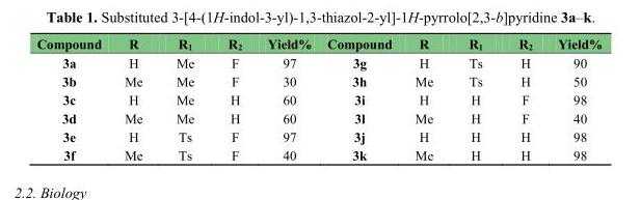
<table><thead><tr><td>Compound</td><td>R</td><td>R<sub>1</sub></td><td>R<sub>2</sub></td><td>Yield%</td><td>Compound</td><td>R</td><td>R<sub>1</sub></td><td>R<sub>2</sub></td><td>Yield%</td></tr></thead><tbody><tr><td>3a</td><td>H</td><td>Me</td><td>F</td><td>97</td><td>3g</td><td>H</td><td>Ts</td><td>H</td><td>90</td></tr><tr><td>3b</td><td>Me</td><td>Me</td><td>F</td><td>30</td><td>3h</td><td>Me</td><td>Ts</td><td>H</td><td>50</td></tr><tr><td>3c</td><td>H</td><td>Me</td><td>H</td><td>60</td><td>3i</td><td>H</td><td>H</td><td>F</td><td>98</td></tr><tr><td>3d</td><td>Me</td><td>Me</td><td>H</td><td>60</td><td>3l</td><td>Me</td><td>H</td><td>F</td><td>40</td></tr><tr><td>3e</td><td>H</td><td>Ts</td><td>F</td><td>97</td><td>3j</td><td>H</td><td>H</td><td>H</td><td>98</td></tr><tr><td>3f</td><td>Me</td><td>Ts</td><td>F</td><td>40</td><td>3k</td><td>Me</td><td>H</td><td>H</td><td>98</td></tr></tbody></table>